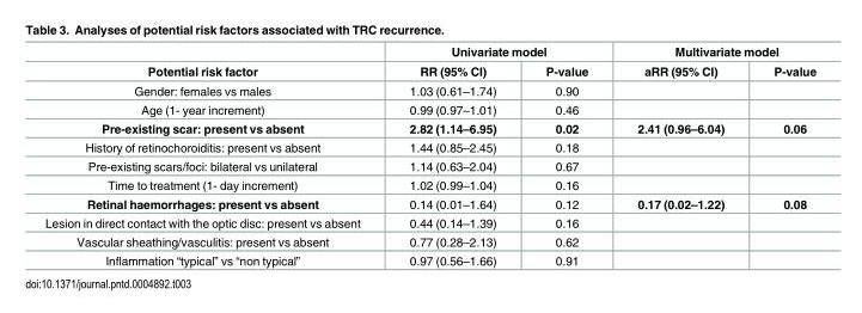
<table><thead><tr><td rowspan="2">Potential risk factor</td><td colspan="2">Univariate model</td><td colspan="2">Multivariate model</td></tr><tr><td>RR (95% CI)</td><td>P-value</td><td>aRR (95% CI)</td><td>P-value</td></tr></thead><tbody><tr><td>Gender: females vs males</td><td>1.03 (0.61–1.74)</td><td>0.90</td><td></td><td></td></tr><tr><td>Age (1- year increment)</td><td>0.99 (0.97–1.01)</td><td>0.46</td><td></td><td></td></tr><tr><td>Pre-existing scar: present vs absent</td><td>2.82 (1.14–6.95)</td><td>0.02</td><td>2.41 (0.96–6.04)</td><td>0.06</td></tr><tr><td>History of retinochoroiditis: present vs absent</td><td>1.44 (0.85–2.45)</td><td>0.18</td><td></td><td></td></tr><tr><td>Pre-existing scars/foci: bilateral vs unilateral</td><td>1.14 (0.63–2.04)</td><td>0.67</td><td></td><td></td></tr><tr><td>Time to treatment (1- day increment)</td><td>1.02 (0.99–1.04)</td><td>0.16</td><td></td><td></td></tr><tr><td>Retinal haemorrhages: present vs absent</td><td>0.14 (0.01–1.64)</td><td>0.12</td><td>0.17 (0.02–1.22)</td><td>0.08</td></tr><tr><td>Lesion in direct contact with the optic disc: present vs absent</td><td>0.44 (0.14–1.39)</td><td>0.16</td><td></td><td></td></tr><tr><td>Vascular sheathing/vasculitis: present vs absent</td><td>0.77 (0.28–2.13)</td><td>0.62</td><td></td><td></td></tr><tr><td>Inflammation “typical” vs “non typical”</td><td>0.97 (0.56–1.66)</td><td>0.91</td><td></td><td></td></tr></tbody></table>